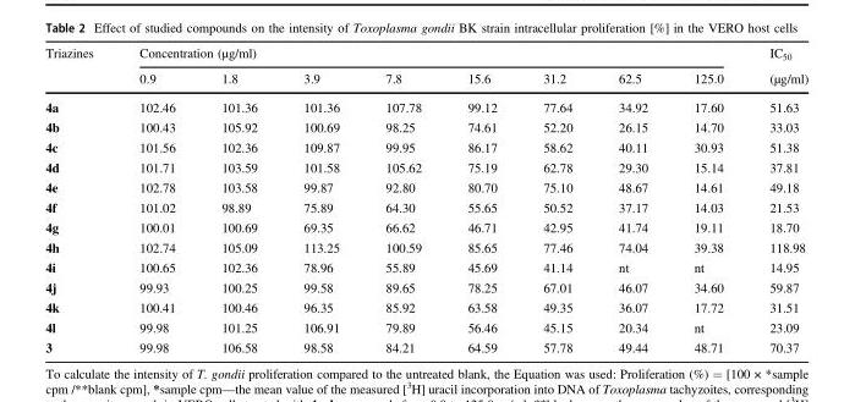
<table><thead><tr><td rowspan="2">Triazines</td><td colspan="8">Concentration (µg/ml)</td><td rowspan="2">IC<sub>50</sub> (µg/ml)</td></tr><tr><td>0.9</td><td>1.8</td><td>3.9</td><td>7.8</td><td>15.6</td><td>31.2</td><td>62.5</td><td>125.0</td></tr></thead><tbody><tr><td>4a</td><td>102.46</td><td>101.36</td><td>101.36</td><td>107.78</td><td>99.12</td><td>77.64</td><td>34.92</td><td>17.60</td><td>51.63</td></tr><tr><td>4b</td><td>100.43</td><td>105.92</td><td>100.69</td><td>98.25</td><td>74.61</td><td>52.20</td><td>26.15</td><td>14.70</td><td>33.03</td></tr><tr><td>4c</td><td>101.56</td><td>102.36</td><td>109.87</td><td>99.95</td><td>86.17</td><td>58.62</td><td>40.11</td><td>30.93</td><td>51.38</td></tr><tr><td>4d</td><td>101.71</td><td>103.59</td><td>101.58</td><td>105.62</td><td>75.19</td><td>62.78</td><td>29.30</td><td>15.14</td><td>37.81</td></tr><tr><td>4e</td><td>102.78</td><td>103.58</td><td>99.87</td><td>92.80</td><td>80.70</td><td>75.10</td><td>48.67</td><td>14.61</td><td>49.18</td></tr><tr><td>4f</td><td>101.02</td><td>98.89</td><td>75.89</td><td>64.30</td><td>55.65</td><td>50.52</td><td>37.17</td><td>14.03</td><td>21.53</td></tr><tr><td>4g</td><td>100.01</td><td>100.69</td><td>69.35</td><td>66.62</td><td>46.71</td><td>42.95</td><td>41.74</td><td>19.11</td><td>18.70</td></tr><tr><td>4h</td><td>102.74</td><td>105.09</td><td>113.25</td><td>100.59</td><td>85.65</td><td>77.46</td><td>74.04</td><td>39.38</td><td>118.98</td></tr><tr><td>4i</td><td>100.65</td><td>102.36</td><td>78.96</td><td>55.89</td><td>45.69</td><td>41.14</td><td>nt</td><td>nt</td><td>14.95</td></tr><tr><td>4j</td><td>99.93</td><td>100.25</td><td>99.58</td><td>89.65</td><td>78.25</td><td>67.01</td><td>46.07</td><td>34.60</td><td>59.87</td></tr><tr><td>4k</td><td>100.41</td><td>100.46</td><td>96.35</td><td>85.92</td><td>63.58</td><td>49.35</td><td>36.07</td><td>17.72</td><td>31.51</td></tr><tr><td>4l</td><td>99.98</td><td>101.25</td><td>106.91</td><td>79.89</td><td>56.46</td><td>45.15</td><td>20.34</td><td>nt</td><td>23.09</td></tr><tr><td>3</td><td>99.98</td><td>106.58</td><td>98.58</td><td>84.21</td><td>64.59</td><td>57.78</td><td>49.44</td><td>48.71</td><td>70.37</td></tr></tbody></table>